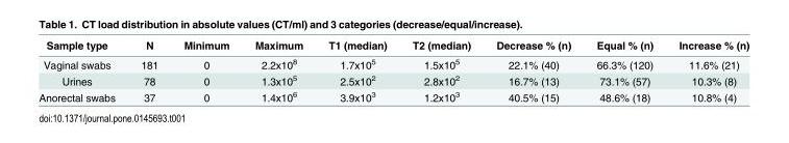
<table><thead><tr><td>Sample type</td><td>N</td><td>Minimum</td><td>Maximum</td><td>T1 (median)</td><td>T2 (median)</td><td>Decrease % (n)</td><td>Equal % (n)</td><td>Increase % (n)</td></tr></thead><tbody><tr><td>Vaginal swabs</td><td>181</td><td>0</td><td>2.2x10<sup>8</sup></td><td>1.7x10<sup>5</sup></td><td>1.5x10<sup>5</sup></td><td>22.1% (40)</td><td>66.3% (120)</td><td>11.6% (21)</td></tr><tr><td>Urines</td><td>78</td><td>0</td><td>1.3x10<sup>5</sup></td><td>2.5x10<sup>2</sup></td><td>2.8x10<sup>2</sup></td><td>16.7% (13)</td><td>73.1% (57)</td><td>10.3% (8)</td></tr><tr><td>Anorectal swabs</td><td>37</td><td>0</td><td>1.4x10<sup>6</sup></td><td>3.9x10<sup>3</sup></td><td>1.2x10<sup>3</sup></td><td>40.5% (15)</td><td>48.6% (18)</td><td>10.8% (4)</td></tr></tbody></table>